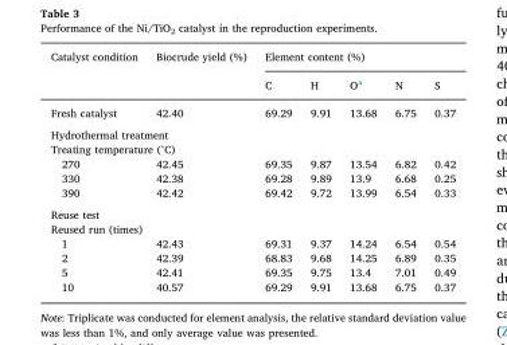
<table><thead><tr><td rowspan="2">Catalyst condition</td><td rowspan="2">Biocrude yield (%)</td><td colspan="5">Element content (%)</td></tr><tr><td>C</td><td>H</td><td>O<sup>a</sup></td><td>N</td><td>S</td></tr></thead><tbody><tr><td>Fresh catalyst</td><td>42.40</td><td>69.29</td><td>9.91</td><td>13.68</td><td>6.75</td><td>0.37</td></tr><tr><td colspan="7">Hydrothermal treatment</td></tr><tr><td colspan="7">Treating temperature (°C)</td></tr><tr><td>270</td><td>42.45</td><td>69.35</td><td>9.87</td><td>13.54</td><td>6.82</td><td>0.42</td></tr><tr><td>330</td><td>42.38</td><td>69.28</td><td>9.89</td><td>13.9</td><td>6.68</td><td>0.25</td></tr><tr><td>390</td><td>42.42</td><td>69.42</td><td>9.72</td><td>13.99</td><td>6.54</td><td>0.33</td></tr><tr><td colspan="7">Reuse test</td></tr><tr><td colspan="7">Reused run (times)</td></tr><tr><td>1</td><td>42.43</td><td>69.31</td><td>9.37</td><td>14.24</td><td>6.54</td><td>0.54</td></tr><tr><td>2</td><td>42.39</td><td>68.83</td><td>9.68</td><td>14.25</td><td>6.89</td><td>0.35</td></tr><tr><td>5</td><td>42.41</td><td>69.35</td><td>9.75</td><td>13.4</td><td>7.01</td><td>0.49</td></tr><tr><td>10</td><td>40.57</td><td>69.29</td><td>9.91</td><td>13.68</td><td>6.75</td><td>0.37</td></tr></tbody></table>